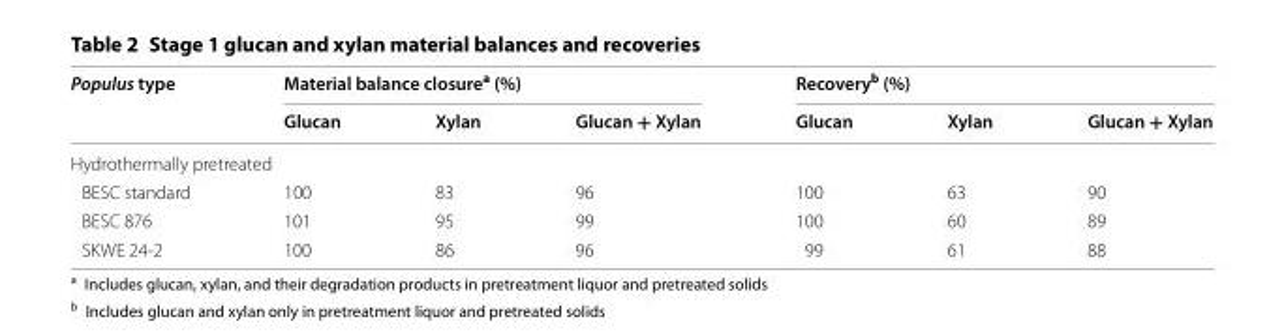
<table><thead><tr><td rowspan="2">Populus type</td><td colspan="3">Material balance closure<sup>a</sup> (%)</td><td colspan="3">Recovery<sup>b</sup> (%)</td></tr><tr><td>Glucan</td><td>Xylan</td><td>Glucan + Xylan</td><td>Glucan</td><td>Xylan</td><td>Glucan + Xylan</td></tr></thead><tbody><tr><td colspan="7">Hydrothermally pretreated</td></tr><tr><td>BESC standard</td><td>100</td><td>83</td><td>96</td><td>100</td><td>63</td><td>90</td></tr><tr><td>BESC 876</td><td>101</td><td>95</td><td>99</td><td>100</td><td>60</td><td>89</td></tr><tr><td>SKWE 24-2</td><td>100</td><td>86</td><td>96</td><td>99</td><td>61</td><td>88</td></tr></tbody></table>